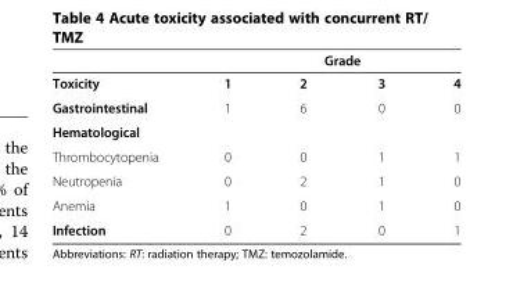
<table><thead><tr><td rowspan="2">Toxicity</td><td rowspan="2">1</td><td colspan="2">Grade</td><td rowspan="2">4</td></tr><tr><td>2</td><td>3</td></tr></thead><tbody><tr><td>Gastrointestinal</td><td>1</td><td>6</td><td>0</td><td>0</td></tr><tr><td colspan="5">Hematological</td></tr><tr><td>Thrombocytopenia</td><td>0</td><td>0</td><td>1</td><td>1</td></tr><tr><td>Neutropenia</td><td>0</td><td>2</td><td>1</td><td>0</td></tr><tr><td>Anemia</td><td>1</td><td>0</td><td>1</td><td>0</td></tr><tr><td>Infection</td><td>0</td><td>2</td><td>0</td><td>1</td></tr></tbody></table>